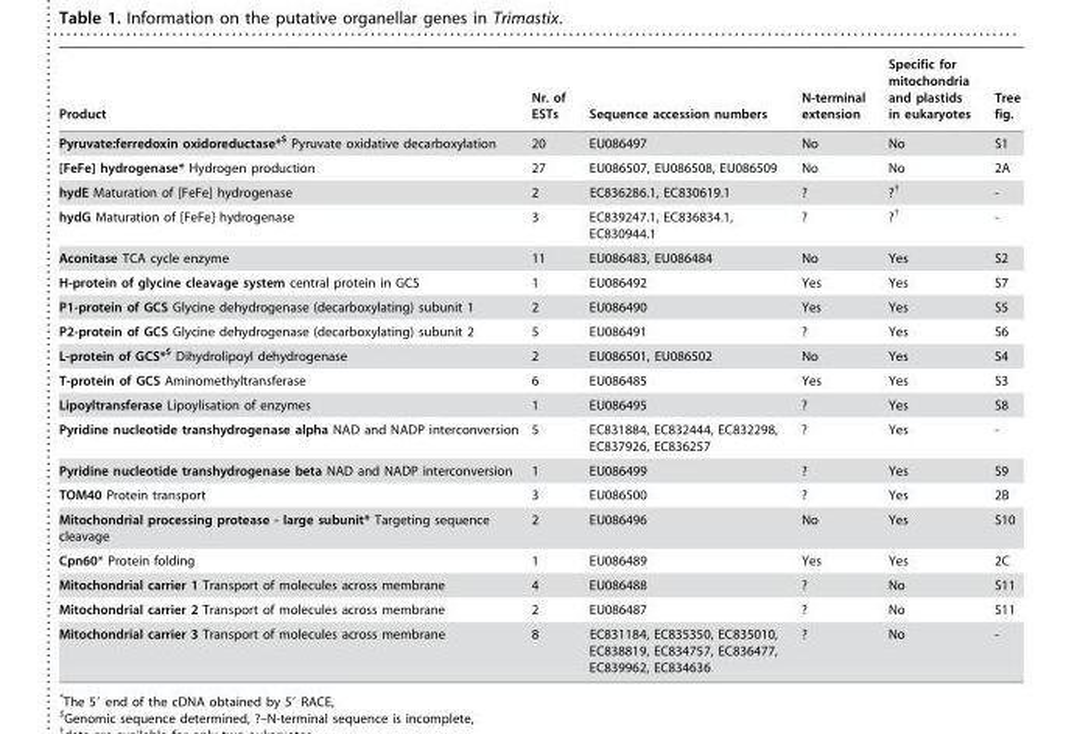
<table><thead><tr><td>Product</td><td>Nr. of ESTs</td><td>Sequence accession numbers</td><td>N-terminal extension</td><td>Specific for mitochondria and plastids in eukaryotes</td><td>Tree fig.</td></tr></thead><tbody><tr><td>Pyruvate:ferredoxin oxidoreductase*$ Pyruvate oxidative decarboxylation</td><td>20</td><td>EU086497</td><td>No</td><td>No</td><td>S1</td></tr><tr><td>[FeFe] hydrogenase* Hydrogen production</td><td>27</td><td>EU086507, EU086508, EU086509</td><td>No</td><td>No</td><td>2A</td></tr><tr><td>hydE Maturation of [FeFe] hydrogenase</td><td>2</td><td>EC836286.1, EC830619.1</td><td>?</td><td>?†</td><td>-</td></tr><tr><td>hydG Maturation of [FeFe] hydrogenase</td><td>3</td><td>EC839247.1, EC836834.1, EC830944.1</td><td>?</td><td>?†</td><td>-</td></tr><tr><td>Aconitase TCA cycle enzyme</td><td>11</td><td>EU086483, EU086484</td><td>No</td><td>Yes</td><td>S2</td></tr><tr><td>H-protein of glycine cleavage system central protein in GCS</td><td>1</td><td>EU086492</td><td>Yes</td><td>Yes</td><td>S7</td></tr><tr><td>P1-protein of GCS Glycine dehydrogenase (decarboxylating) subunit 1</td><td>2</td><td>EU086490</td><td>Yes</td><td>Yes</td><td>S5</td></tr><tr><td>P2-protein of GCS Glycine dehydrogenase (decarboxylating) subunit 2</td><td>5</td><td>EU086491</td><td>?</td><td>Yes</td><td>S6</td></tr><tr><td>L-protein of GCS*$ Dihydrolipoyl dehydrogenase</td><td>2</td><td>EU086501, EU086502</td><td>No</td><td>Yes</td><td>S4</td></tr><tr><td>T-protein of GCS Aminomethyltransferase</td><td>6</td><td>EU086485</td><td>Yes</td><td>Yes</td><td>S3</td></tr><tr><td>Lipoyltransferase Lipoylisation of enzymes</td><td>1</td><td>EU086495</td><td>?</td><td>Yes</td><td>S8</td></tr><tr><td>Pyridine nucleotide transhydrogenase alpha NAD and NADP interconversion</td><td>5</td><td>EC831884, EC832444, EC832298, EC837926, EC836257</td><td>?</td><td>Yes</td><td>-</td></tr><tr><td>Pyridine nucleotide transhydrogenase beta NAD and NADP interconversion</td><td>1</td><td>EU086499</td><td>?</td><td>Yes</td><td>S9</td></tr><tr><td>TOM40 Protein transport</td><td>3</td><td>EU086500</td><td>?</td><td>Yes</td><td>2B</td></tr><tr><td>Mitochondrial processing protease - large subunit* Targeting sequence cleavage</td><td>2</td><td>EU086496</td><td>No</td><td>Yes</td><td>S10</td></tr><tr><td>Cpn60* Protein folding</td><td>1</td><td>EU086489</td><td>Yes</td><td>Yes</td><td>2C</td></tr><tr><td>Mitochondrial carrier 1 Transport of molecules across membrane</td><td>4</td><td>EU086488</td><td>?</td><td>No</td><td>S11</td></tr><tr><td>Mitochondrial carrier 2 Transport of molecules across membrane</td><td>2</td><td>EU086487</td><td>?</td><td>No</td><td>S11</td></tr><tr><td>Mitochondrial carrier 3 Transport of molecules across membrane</td><td>8</td><td>EC831184, EC835350, EC835010, EC838819, EC834757, EC836477, EC839962, EC834636</td><td>?</td><td>No</td><td>-</td></tr></tbody></table>